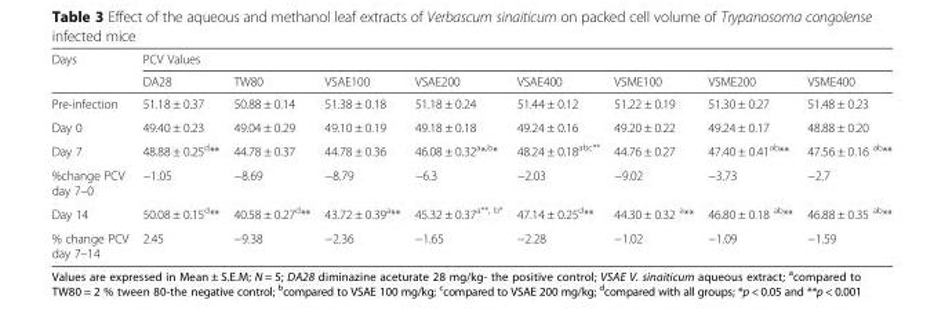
<table><thead><tr><td rowspan="2">Days</td><td colspan="8">PCV Values</td></tr><tr><td>DA28</td><td>TW80</td><td>VSAE100</td><td>VSAE200</td><td>VSAE400</td><td>VSME100</td><td>VSME200</td><td>VSME400</td></tr></thead><tbody><tr><td>Pre-infection</td><td>51.18 ± 0.37</td><td>50.88 ± 0.14</td><td>51.38 ± 0.18</td><td>51.18 ± 0.24</td><td>51.44 ± 0.12</td><td>51.22 ± 0.19</td><td>51.30 ± 0.27</td><td>51.48 ± 0.23</td></tr><tr><td>Day 0</td><td>49.40 ± 0.23</td><td>49.04 ± 0.29</td><td>49.10 ± 0.19</td><td>49.18 ± 0.18</td><td>49.24 ± 0.16</td><td>49.20 ± 0.22</td><td>49.24 ± 0.17</td><td>48.88 ± 0.20</td></tr><tr><td>Day 7</td><td>48.88 ± 0.25<sup>d</sup>**</td><td>44.78 ± 0.37</td><td>44.78 ± 0.36</td><td>46.08 ± 0.32<sup>a</sup>*<sup>,b</sup>*</td><td>48.24 ± 0.18<sup>abc**</sup></td><td>44.76 ± 0.27</td><td>47.40 ± 0.41<sup>ab</sup>**</td><td>47.56 ± 0.16 <sup>ab</sup>**</td></tr><tr><td>%change PCV day 7–0</td><td>−1.05</td><td>−8.69</td><td>−8.79</td><td>−6.3</td><td>−2.03</td><td>−9.02</td><td>−3.73</td><td>−2.7</td></tr><tr><td>Day 14</td><td>50.08 ± 0.15<sup>d</sup>**</td><td>40.58 ± 0.27<sup>d</sup>**</td><td>43.72 ± 0.39<sup>a</sup>**</td><td>45.32 ± 0.37<sup>a**, b*</sup></td><td>47.14 ± 0.25<sup>d</sup>**</td><td>44.30 ± 0.32 <sup>a</sup>**</td><td>46.80 ± 0.18 <sup>ab</sup>**</td><td>46.88 ± 0.35 <sup>ab</sup>**</td></tr><tr><td>% change PCV day 7–14</td><td>2.45</td><td>−9.38</td><td>−2.36</td><td>−1.65</td><td>−2.28</td><td>−1.02</td><td>−1.09</td><td>−1.59</td></tr></tbody></table>